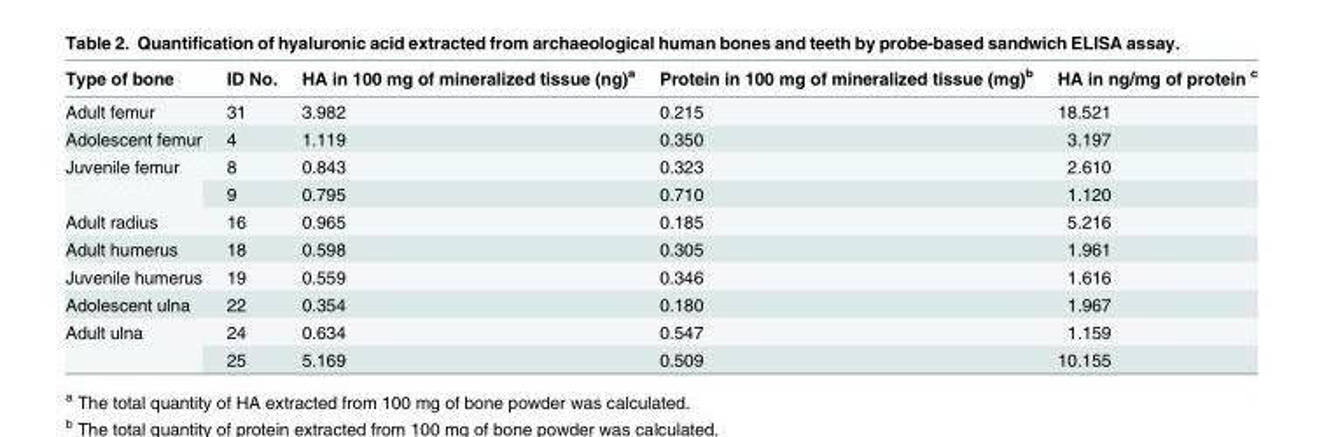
<table><thead><tr><td>Type of bone</td><td>ID No.</td><td>HA in 100 mg of mineralized tissue (ng)<sup>a</sup></td><td>Protein in 100 mg of mineralized tissue (mg)<sup>b</sup></td><td>HA in ng/mg of protein <sup>c</sup></td></tr></thead><tbody><tr><td>Adult femur</td><td>31</td><td>3.982</td><td>0.215</td><td>18.521</td></tr><tr><td>Adolescent femur</td><td>4</td><td>1.119</td><td>0.350</td><td>3.197</td></tr><tr><td rowspan="2">Juvenile femur</td><td>8</td><td>0.843</td><td>0.323</td><td>2.610</td></tr><tr><td>9</td><td>0.795</td><td>0.710</td><td>1.120</td></tr><tr><td>Adult radius</td><td>16</td><td>0.965</td><td>0.185</td><td>5.216</td></tr><tr><td>Adult humerus</td><td>18</td><td>0.598</td><td>0.305</td><td>1.961</td></tr><tr><td>Juvenile humerus</td><td>19</td><td>0.559</td><td>0.346</td><td>1.616</td></tr><tr><td>Adolescent ulna</td><td>22</td><td>0.354</td><td>0.180</td><td>1.967</td></tr><tr><td rowspan="2">Adult ulna</td><td>24</td><td>0.634</td><td>0.547</td><td>1.159</td></tr><tr><td>25</td><td>5.169</td><td>0.509</td><td>10.155</td></tr></tbody></table>